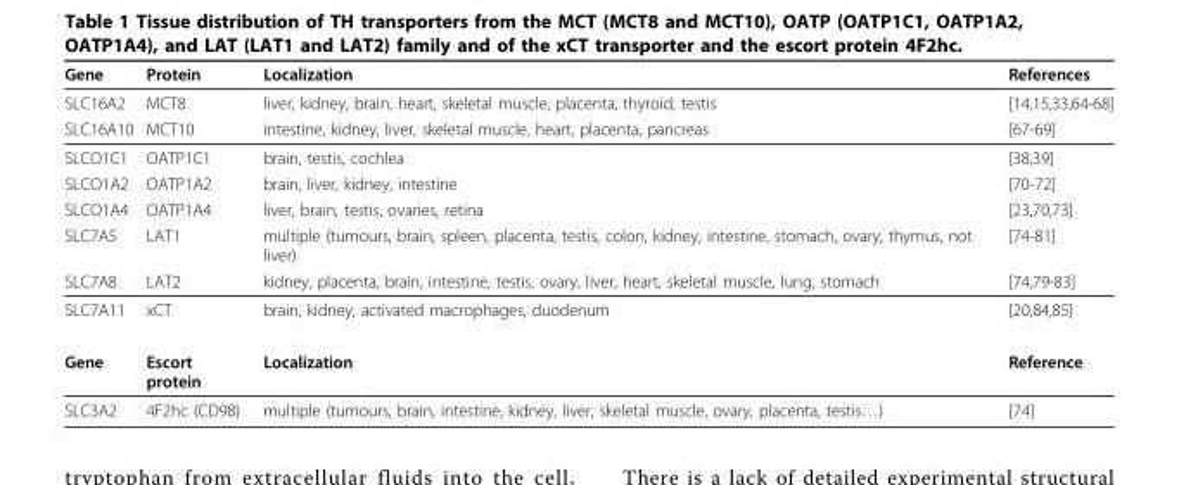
<table><thead><tr><td>Gene</td><td>Protein</td><td>Localization</td><td>References</td></tr></thead><tbody><tr><td>SLC16A2</td><td>MCT8</td><td>liver, kidney, brain, heart, skeletal muscle, placenta, thyroid, testis</td><td>[14,15,33,64-68]</td></tr><tr><td>SLC16A10</td><td>MCT10</td><td>intestine, kidney, liver, skeletal muscle, heart, placenta, pancreas</td><td>[67-69]</td></tr><tr><td>SLCO1C1</td><td>OATP1C1</td><td>brain, testis, cochlea</td><td>[38,39]</td></tr><tr><td>SLCO1A2</td><td>OATP1A2</td><td>brain, liver, kidney, intestine</td><td>[70-72]</td></tr><tr><td>SLCO1A4</td><td>OATP1A4</td><td>liver, brain, testis, ovaries, retina</td><td>[23,70,73]</td></tr><tr><td>SLC7A5</td><td>LAT1</td><td>multiple (tumours, brain, spleen, placenta, testis, colon, kidney, intestine, stomach, ovary, thymus, not liver)</td><td>[74-81]</td></tr><tr><td>SLC7A8</td><td>LAT2</td><td>kidney, placenta, brain, intestine, testis, ovary, liver, heart, skeletal muscle, lung, stomach</td><td>[74,79-83]</td></tr><tr><td>SLC7A11</td><td>xCT</td><td>brain, kidney, activated macrophages, duodenum</td><td>[20,84,85]</td></tr><tr><td>Gene</td><td>Escort protein</td><td>Localization</td><td>Reference</td></tr><tr><td>SLC3A2</td><td>4F2hc (CD98)</td><td>multiple (tumours, brain, intestine, kidney, liver, skeletal muscle, ovary, placenta, testis…)</td><td>[74]</td></tr></tbody></table>